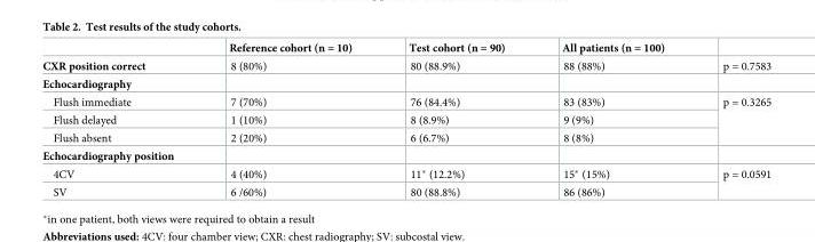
<table><thead><tr><td></td><td>Reference cohort (n = 10)</td><td>Test cohort (n = 90)</td><td>All patients (n = 100)</td><td></td></tr></thead><tbody><tr><td>CXR position correct</td><td>8 (80%)</td><td>80 (88.9%)</td><td>88 (88%)</td><td>p = 0.7583</td></tr><tr><td colspan="5">Echocardiography</td></tr><tr><td>Flush immediate</td><td>7 (70%)</td><td>76 (84.4%)</td><td>83 (83%)</td><td rowspan="3">p = 0.3265</td></tr><tr><td>Flush delayed</td><td>1 (10%)</td><td>8 (8.9%)</td><td>9 (9%)</td></tr><tr><td>Flush absent</td><td>2 (20%)</td><td>6 (6.7%)</td><td>8 (8%)</td></tr><tr><td colspan="5">Echocardiography position</td></tr><tr><td>4CV</td><td>4 (40%)</td><td>11* (12.2%)</td><td>15* (15%)</td><td rowspan="2">p = 0.0591</td></tr><tr><td>SV</td><td>6 /60%)</td><td>80 (88.8%)</td><td>86 (86%)</td></tr></tbody></table>